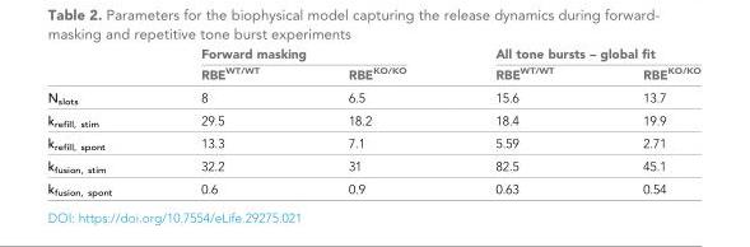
<table><thead><tr><td rowspan="2"></td><td colspan="2">Forward masking</td><td colspan="2">All tone bursts – global fit</td></tr><tr><td>RBE<sup>WT/WT</sup></td><td>RBE<sup>KO/KO</sup></td><td>RBE<sup>WT/WT</sup></td><td>RBE<sup>KO/KO</sup></td></tr></thead><tbody><tr><td>N<sub>slots</sub></td><td>8</td><td>6.5</td><td>15.6</td><td>13.7</td></tr><tr><td>k<sub>refill, stim</sub></td><td>29.5</td><td>18.2</td><td>18.4</td><td>19.9</td></tr><tr><td>k<sub>refill, spont</sub></td><td>13.3</td><td>7.1</td><td>5.59</td><td>2.71</td></tr><tr><td>k<sub>fusion, stim</sub></td><td>32.2</td><td>31</td><td>82.5</td><td>45.1</td></tr><tr><td>k<sub>fusion, spont</sub></td><td>0.6</td><td>0.9</td><td>0.63</td><td>0.54</td></tr></tbody></table>